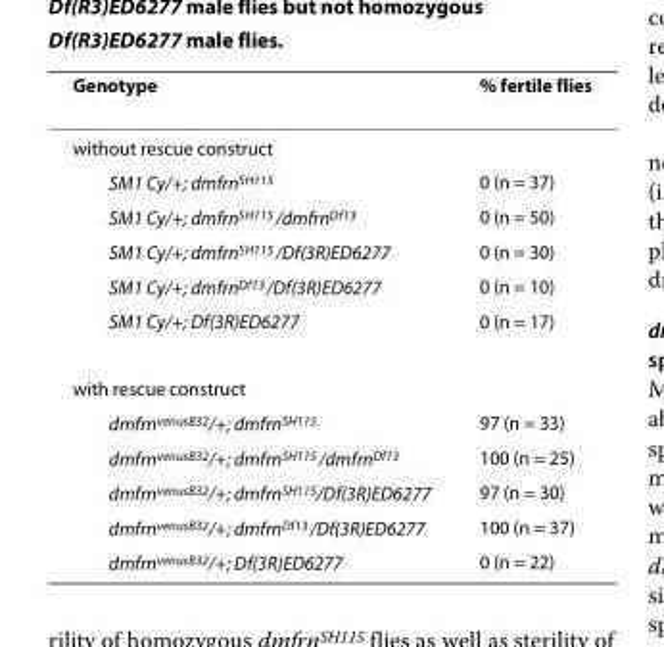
<table><thead><tr><td>Genotype</td><td>% fertile flies</td></tr></thead><tbody><tr><td colspan="2">without rescue construct</td></tr><tr><td>SM1 Cy/+; dmfrn<sup>SH115</sup></td><td>0 (n = 37)</td></tr><tr><td>SM1 Cy/+; dmfrn<sup>SH115</sup> /dmfrn<sup>Df13</sup></td><td>0 (n = 50)</td></tr><tr><td>SM1 Cy/+; dmfrn<sup>SH115</sup> /Df(3R)ED6277</td><td>0 (n = 30)</td></tr><tr><td>SM1 Cy/+; dmfrn<sup>Df13</sup> /Df(3R)ED6277</td><td>0 (n = 10)</td></tr><tr><td>SM1 Cy/+; Df(3R)ED6277</td><td>0 (n = 17)</td></tr><tr><td colspan="2">with rescue construct</td></tr><tr><td>dmfrn<sup>venusB32</sup>/+; dmfrn<sup>SH115</sup></td><td>97 (n = 33)</td></tr><tr><td>dmfrn<sup>venusB32</sup>/+; dmfrn<sup>SH115</sup> /dmfrn<sup>Df13</sup></td><td>100 (n = 25)</td></tr><tr><td>dmfrn<sup>venusB32</sup>/+; dmfrn<sup>SH115</sup>/Df(3R)ED6277</td><td>97 (n = 30)</td></tr><tr><td>dmfrn<sup>venusB32</sup>/+; dmfrn<sup>Df13</sup> /Df(3R)ED6277</td><td>100 (n = 37)</td></tr><tr><td>dmfrn<sup>venusB32</sup>/+; Df(3R)ED6277</td><td>0 (n = 22)</td></tr></tbody></table>